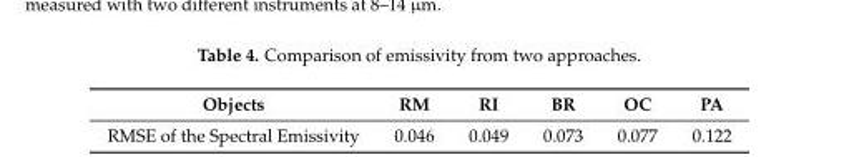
<table><thead><tr><td>Objects</td><td>RM</td><td>RI</td><td>BR</td><td>OC</td><td>PA</td></tr></thead><tbody><tr><td>RMSE of the Spectral Emissivity</td><td>0.046</td><td>0.049</td><td>0.073</td><td>0.077</td><td>0.122</td></tr></tbody></table>